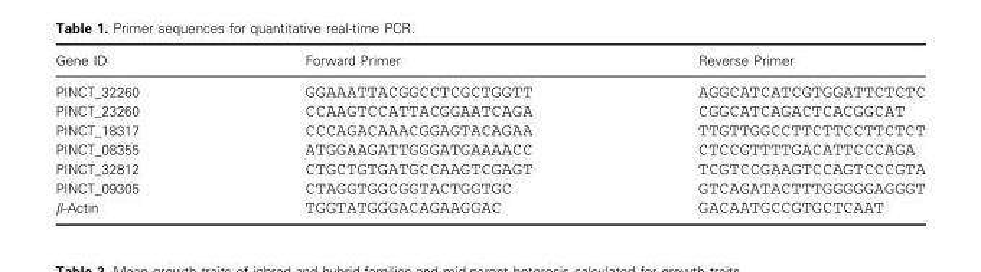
<table><thead><tr><td>Gene ID</td><td>Forward Primer</td><td>Reverse Primer</td></tr></thead><tbody><tr><td>PINCT_32260</td><td>GGAAATTACGGCCTCGCTGGTT</td><td>AGGCATCATCGTGGATTCTCTC</td></tr><tr><td>PINCT_23260</td><td>CCAAGTCCATTACGGAATCAGA</td><td>CGGCATCAGACTCACGGCAT</td></tr><tr><td>PINCT_18317</td><td>CCCAGACAAACGGAGTACAGAA</td><td>TTGTTGGCCTTCTTCCTTCTCT</td></tr><tr><td>PINCT_08355</td><td>ATGGAAGATTGGGATGAAAACC</td><td>CTCCGTTTTGACATTCCCAGA</td></tr><tr><td>PINCT_32812</td><td>CTGCTGTGATGCCAAGTCGAGT</td><td>TCGTCCGAAGTCCAGTCCCGTA</td></tr><tr><td>PINCT_09305</td><td>CTAGGTGGCGGTACTGGTGC</td><td>GTCAGATACTTTGGGGGAGGGT</td></tr><tr><td>β-Actin</td><td>TGGTATGGGACAGAAGGAC</td><td>GACAATGCCGTGCTCAAT</td></tr></tbody></table>